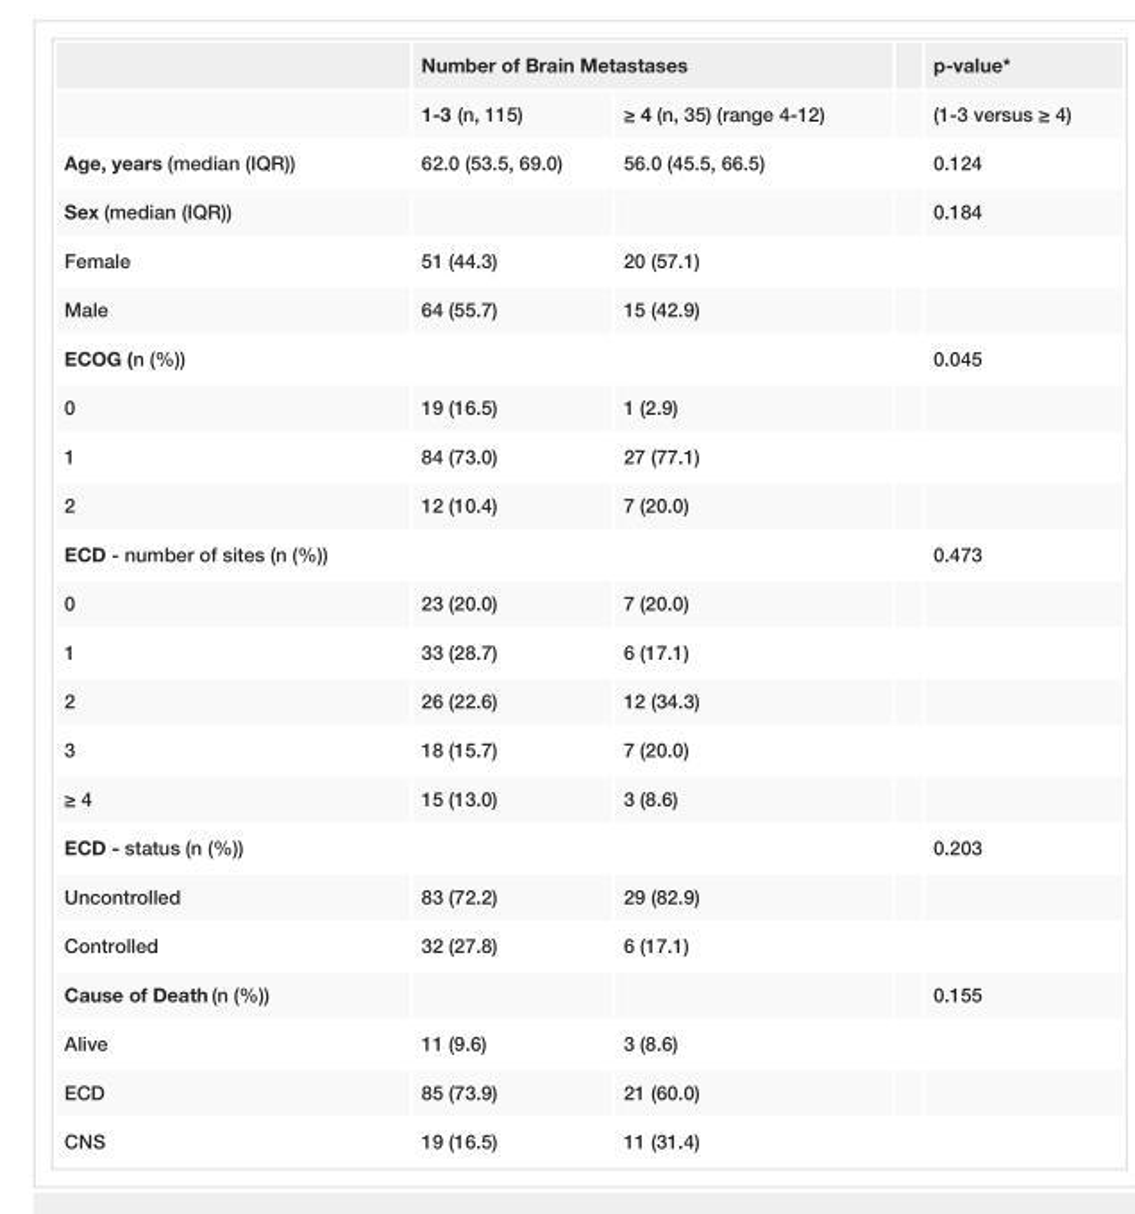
<table><thead><tr><td rowspan="2"></td><td colspan="2">Number of Brain Metastases</td><td rowspan="2">p-value* (1-3 versus ≥ 4)</td></tr><tr><td>1-3 (n, 115)</td><td>≥ 4 (n, 35) (range 4-12)</td></tr></thead><tbody><tr><td>Age, years (median (IQR))</td><td>62.0 (53.5, 69.0)</td><td>56.0 (45.5, 66.5)</td><td>0.124</td></tr><tr><td>Sex (median (IQR))</td><td></td><td></td><td>0.184</td></tr><tr><td>Female</td><td>51 (44.3)</td><td>20 (57.1)</td><td></td></tr><tr><td>Male</td><td>64 (55.7)</td><td>15 (42.9)</td><td></td></tr><tr><td>ECOG (n (%))</td><td></td><td></td><td>0.045</td></tr><tr><td>0</td><td>19 (16.5)</td><td>1 (2.9)</td><td></td></tr><tr><td>1</td><td>84 (73.0)</td><td>27 (77.1)</td><td></td></tr><tr><td>2</td><td>12 (10.4)</td><td>7 (20.0)</td><td></td></tr><tr><td>ECD - number of sites (n (%))</td><td></td><td></td><td>0.473</td></tr><tr><td>0</td><td>23 (20.0)</td><td>7 (20.0)</td><td></td></tr><tr><td>1</td><td>33 (28.7)</td><td>6 (17.1)</td><td></td></tr><tr><td>2</td><td>26 (22.6)</td><td>12 (34.3)</td><td></td></tr><tr><td>3</td><td>18 (15.7)</td><td>7 (20.0)</td><td></td></tr><tr><td>≥ 4</td><td>15 (13.0)</td><td>3 (8.6)</td><td></td></tr><tr><td>ECD - status (n (%))</td><td></td><td></td><td>0.203</td></tr><tr><td>Uncontrolled</td><td>83 (72.2)</td><td>29 (82.9)</td><td></td></tr><tr><td>Controlled</td><td>32 (27.8)</td><td>6 (17.1)</td><td></td></tr><tr><td>Cause of Death (n (%))</td><td></td><td></td><td>0.155</td></tr><tr><td>Alive</td><td>11 (9.6)</td><td>3 (8.6)</td><td></td></tr><tr><td>ECD</td><td>85 (73.9)</td><td>21 (60.0)</td><td></td></tr><tr><td>CNS</td><td>19 (16.5)</td><td>11 (31.4)</td><td></td></tr></tbody></table>